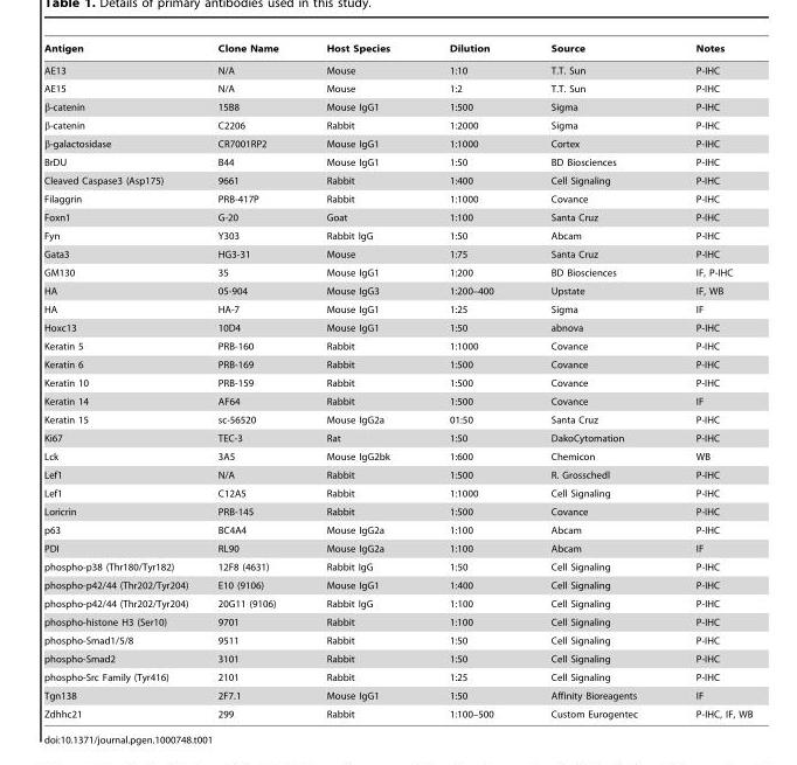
<table><thead><tr><td>Antigen</td><td>Clone Name</td><td>Host Species</td><td>Dilution</td><td>Source</td><td>Notes</td></tr></thead><tbody><tr><td>AE13</td><td>N/A</td><td>Mouse</td><td>1:10</td><td>T.T. Sun</td><td>P-IHC</td></tr><tr><td>AE15</td><td>N/A</td><td>Mouse</td><td>1:2</td><td>T.T. Sun</td><td>P-IHC</td></tr><tr><td>β-catenin</td><td>15B8</td><td>Mouse IgG1</td><td>1:500</td><td>Sigma</td><td>P-IHC</td></tr><tr><td>β-catenin</td><td>C2206</td><td>Rabbit</td><td>1:2000</td><td>Sigma</td><td>P-IHC</td></tr><tr><td>β-galactosidase</td><td>CR7001RP2</td><td>Mouse IgG1</td><td>1:1000</td><td>Cortex</td><td>P-IHC</td></tr><tr><td>BrDU</td><td>B44</td><td>Mouse IgG1</td><td>1:50</td><td>BD Biosciences</td><td>P-IHC</td></tr><tr><td>Cleaved Caspase3 (Asp175)</td><td>9661</td><td>Rabbit</td><td>1:400</td><td>Cell Signaling</td><td>P-IHC</td></tr><tr><td>Filaggrin</td><td>PRB-417P</td><td>Rabbit</td><td>1:1000</td><td>Covance</td><td>P-IHC</td></tr><tr><td>Foxn1</td><td>G-20</td><td>Goat</td><td>1:100</td><td>Santa Cruz</td><td>P-IHC</td></tr><tr><td>Fyn</td><td>Y303</td><td>Rabbit IgG</td><td>1:50</td><td>Abcam</td><td>P-IHC</td></tr><tr><td>Gata3</td><td>HG3-31</td><td>Mouse</td><td>1:75</td><td>Santa Cruz</td><td>P-IHC</td></tr><tr><td>GM130</td><td>35</td><td>Mouse IgG1</td><td>1:200</td><td>BD Biosciences</td><td>IF, P-IHC</td></tr><tr><td>HA</td><td>05-904</td><td>Mouse IgG3</td><td>1:200–400</td><td>Upstate</td><td>IF, WB</td></tr><tr><td>HA</td><td>HA-7</td><td>Mouse IgG1</td><td>1:25</td><td>Sigma</td><td>IF</td></tr><tr><td>Hoxc13</td><td>10D4</td><td>Mouse IgG1</td><td>1:50</td><td>abnova</td><td>P-IHC</td></tr><tr><td>Keratin 5</td><td>PRB-160</td><td>Rabbit</td><td>1:1000</td><td>Covance</td><td>P-IHC</td></tr><tr><td>Keratin 6</td><td>PRB-169</td><td>Rabbit</td><td>1:500</td><td>Covance</td><td>P-IHC</td></tr><tr><td>Keratin 10</td><td>PRB-159</td><td>Rabbit</td><td>1:500</td><td>Covance</td><td>P-IHC</td></tr><tr><td>Keratin 14</td><td>AF64</td><td>Rabbit</td><td>1:500</td><td>Covance</td><td>IF</td></tr><tr><td>Keratin 15</td><td>sc-56520</td><td>Mouse IgG2a</td><td>01:50</td><td>Santa Cruz</td><td>P-IHC</td></tr><tr><td>Ki67</td><td>TEC-3</td><td>Rat</td><td>1:50</td><td>DakoCytomation</td><td>P-IHC</td></tr><tr><td>Lck</td><td>3A5</td><td>Mouse IgG2bk</td><td>1:600</td><td>Chemicon</td><td>WB</td></tr><tr><td>Lef1</td><td>N/A</td><td>Rabbit</td><td>1:500</td><td>R. Grosschedl</td><td>P-IHC</td></tr><tr><td>Lef1</td><td>C12A5</td><td>Rabbit</td><td>1:1000</td><td>Cell Signaling</td><td>P-IHC</td></tr><tr><td>Loricrin</td><td>PRB-145</td><td>Rabbit</td><td>1:500</td><td>Covance</td><td>P-IHC</td></tr><tr><td>p63</td><td>BC4A4</td><td>Mouse IgG2a</td><td>1:100</td><td>Abcam</td><td>P-IHC</td></tr><tr><td>PDI</td><td>RL90</td><td>Mouse IgG2a</td><td>1:100</td><td>Abcam</td><td>IF</td></tr><tr><td>phospho-p38 (Thr180/Tyr182)</td><td>12F8 (4631)</td><td>Rabbit IgG</td><td>1:50</td><td>Cell Signaling</td><td>P-IHC</td></tr><tr><td>phospho-p42/44 (Thr202/Tyr204)</td><td>E10 (9106)</td><td>Mouse IgG1</td><td>1:400</td><td>Cell Signaling</td><td>P-IHC</td></tr><tr><td>phospho-p42/44 (Thr202/Tyr204)</td><td>20G11 (9106)</td><td>Rabbit IgG</td><td>1:100</td><td>Cell Signaling</td><td>P-IHC</td></tr><tr><td>phospho-histone H3 (Ser10)</td><td>9701</td><td>Rabbit</td><td>1:100</td><td>Cell Signaling</td><td>P-IHC</td></tr><tr><td>phospho-Smad1/5/8</td><td>9511</td><td>Rabbit</td><td>1:50</td><td>Cell Signaling</td><td>P-IHC</td></tr><tr><td>phospho-Smad2</td><td>3101</td><td>Rabbit</td><td>1:50</td><td>Cell Signaling</td><td>P-IHC</td></tr><tr><td>phospho-Src Family (Tyr416)</td><td>2101</td><td>Rabbit</td><td>1:25</td><td>Cell Signaling</td><td>P-IHC</td></tr><tr><td>Tgn138</td><td>2F7.1</td><td>Mouse IgG1</td><td>1:50</td><td>Affinity Bioreagents</td><td>IF</td></tr><tr><td>Zdhhc21</td><td>299</td><td>Rabbit</td><td>1:100–500</td><td>Custom Eurogentec</td><td>P-IHC, IF, WB</td></tr></tbody></table>